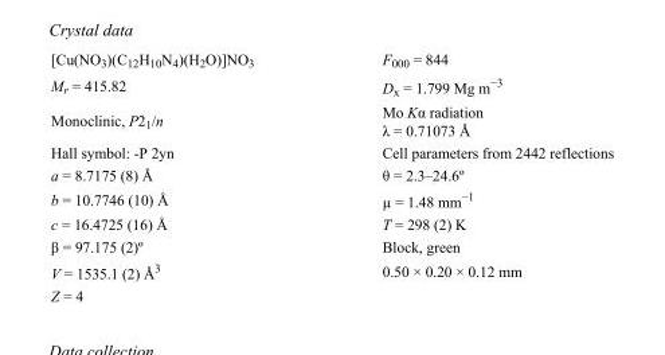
<table><tbody><tr><td>[Cu(NO<sub>3</sub>)(C<sub>12</sub>H<sub>10</sub>N<sub>4</sub>)(H<sub>2</sub>O)]NO<sub>3</sub></td><td>F<sub>000</sub> = 844</td></tr><tr><td>M<sub>r</sub> = 415.82</td><td>D<sub>x</sub> = 1.799 Mg m<sup>−3</sup></td></tr><tr><td>Monoclinic, P2<sub>1</sub>/n</td><td>Mo Kα radiation λ = 0.71073 Å</td></tr><tr><td>Hall symbol: -P 2yn</td><td>Cell parameters from 2442 reflections</td></tr><tr><td>a = 8.7175 (8) Å</td><td>θ = 2.3–24.6º</td></tr><tr><td>b = 10.7746 (10) Å</td><td>µ = 1.48 mm<sup>−1</sup></td></tr><tr><td>c = 16.4725 (16) Å</td><td>T = 298 (2) K</td></tr><tr><td>β = 97.175 (2)º</td><td>Block, green</td></tr><tr><td>V = 1535.1 (2) Å<sup>3</sup></td><td>0.50 × 0.20 × 0.12 mm</td></tr><tr><td>Z = 4</td><td></td></tr></tbody></table>